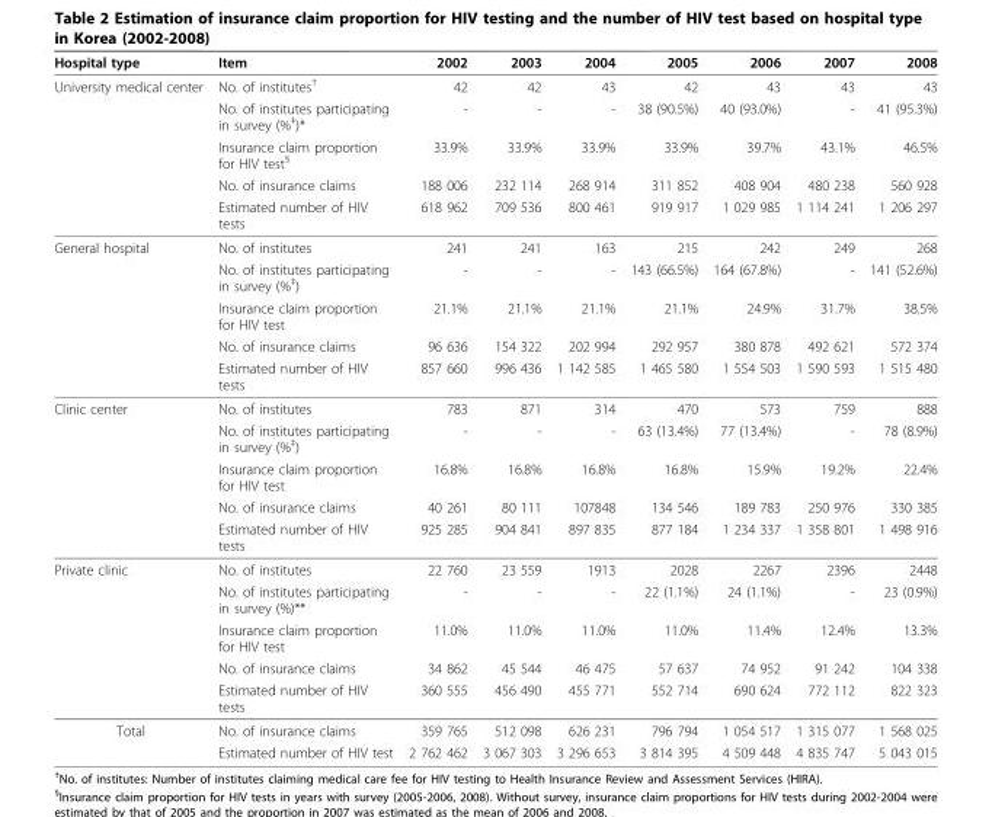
<table><thead><tr><td>Hospital type</td><td>Item</td><td>2002</td><td>2003</td><td>2004</td><td>2005</td><td>2006</td><td>2007</td><td>2008</td></tr></thead><tbody><tr><td rowspan="5">University medical center</td><td>No. of institutes<sup>†</sup></td><td>42</td><td>42</td><td>43</td><td>42</td><td>43</td><td>43</td><td>43</td></tr><tr><td>No. of institutes participating in survey (%<sup>‡</sup>)*</td><td>-</td><td>-</td><td>-</td><td>38 (90.5%)</td><td>40 (93.0%)</td><td>-</td><td>41 (95.3%)</td></tr><tr><td>Insurance claim proportion for HIV test<sup>§</sup></td><td>33.9%</td><td>33.9%</td><td>33.9%</td><td>33.9%</td><td>39.7%</td><td>43.1%</td><td>46.5%</td></tr><tr><td>No. of insurance claims</td><td>188 006</td><td>232 114</td><td>268 914</td><td>311 852</td><td>408 904</td><td>480 238</td><td>560 928</td></tr><tr><td>Estimated number of HIV tests</td><td>618 962</td><td>709 536</td><td>800 461</td><td>919 917</td><td>1 029 985</td><td>1 114 241</td><td>1 206 297</td></tr><tr><td rowspan="5">General hospital</td><td>No. of institutes</td><td>241</td><td>241</td><td>163</td><td>215</td><td>242</td><td>249</td><td>268</td></tr><tr><td>No. of institutes participating in survey (%<sup>‡</sup>)</td><td>-</td><td>-</td><td>-</td><td>143 (66.5%)</td><td>164 (67.8%)</td><td>-</td><td>141 (52.6%)</td></tr><tr><td>Insurance claim proportion for HIV test</td><td>21.1%</td><td>21.1%</td><td>21.1%</td><td>21.1%</td><td>24.9%</td><td>31.7%</td><td>38.5%</td></tr><tr><td>No. of insurance claims</td><td>96 636</td><td>154 322</td><td>202 994</td><td>292 957</td><td>380 878</td><td>492 621</td><td>572 374</td></tr><tr><td>Estimated number of HIV tests</td><td>857 660</td><td>996 436</td><td>1 142 585</td><td>1 465 580</td><td>1 554 503</td><td>1 590 593</td><td>1 515 480</td></tr><tr><td rowspan="5">Clinic center</td><td>No. of institutes</td><td>783</td><td>871</td><td>314</td><td>470</td><td>573</td><td>759</td><td>888</td></tr><tr><td>No. of institutes participating in survey (%<sup>‡</sup>)</td><td>-</td><td>-</td><td>-</td><td>63 (13.4%)</td><td>77 (13.4%)</td><td>-</td><td>78 (8.9%)</td></tr><tr><td>Insurance claim proportion for HIV test</td><td>16.8%</td><td>16.8%</td><td>16.8%</td><td>16.8%</td><td>15.9%</td><td>19.2%</td><td>22.4%</td></tr><tr><td>No. of insurance claims</td><td>40 261</td><td>80 111</td><td>107848</td><td>134 546</td><td>189 783</td><td>250 976</td><td>330 385</td></tr><tr><td>Estimated number of HIV tests</td><td>925 285</td><td>904 841</td><td>897 835</td><td>877 184</td><td>1 234 337</td><td>1 358 801</td><td>1 498 916</td></tr><tr><td rowspan="5">Private clinic</td><td>No. of institutes</td><td>22 760</td><td>23 559</td><td>1913</td><td>2028</td><td>2267</td><td>2396</td><td>2448</td></tr><tr><td>No. of institutes participating in survey (%)**</td><td>-</td><td>-</td><td>-</td><td>22 (1.1%)</td><td>24 (1.1%)</td><td>-</td><td>23 (0.9%)</td></tr><tr><td>Insurance claim proportion for HIV test</td><td>11.0%</td><td>11.0%</td><td>11.0%</td><td>11.0%</td><td>11.4%</td><td>12.4%</td><td>13.3%</td></tr><tr><td>No. of insurance claims</td><td>34 862</td><td>45 544</td><td>46 475</td><td>57 637</td><td>74 952</td><td>91 242</td><td>104 338</td></tr><tr><td>Estimated number of HIV tests</td><td>360 555</td><td>456 490</td><td>455 771</td><td>552 714</td><td>690 624</td><td>772 112</td><td>822 323</td></tr><tr><td rowspan="2">Total</td><td>No. of insurance claims</td><td>359 765</td><td>512 098</td><td>626 231</td><td>796 794</td><td>1 054 517</td><td>1 315 077</td><td>1 568 025</td></tr><tr><td>Estimated number of HIV test</td><td>2 762 462</td><td>3 067 303</td><td>3 296 653</td><td>3 814 395</td><td>4 509 448</td><td>4 835 747</td><td>5 043 015</td></tr></tbody></table>